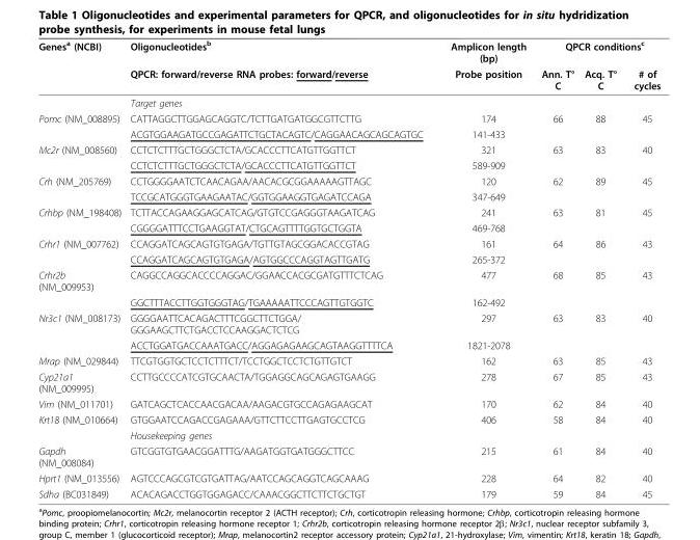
<table><thead><tr><td rowspan="2">Genes<sup>a</sup> (NCBI)</td><td rowspan="2">Oligonucleotides<sup>b</sup> QPCR: forward/reverse RNA probes: forward/reverse</td><td rowspan="2">Amplicon length (bp) Probe position</td><td colspan="3">QPCR conditions<sup>c</sup></td></tr><tr><td>Ann. T° C</td><td>Acq. T° C</td><td># of cycles</td></tr></thead><tbody><tr><td></td><td colspan="5">Target genes</td></tr><tr><td rowspan="2">Pomc (NM_008895)</td><td>CATTAGGCTTGGAGCAGGTC/TCTTGATGATGGCGTTCTTG</td><td>174</td><td>66</td><td>88</td><td>45</td></tr><tr><td>ACGTGGAAGATGCCGAGATTCTGCTACAGTC/CAGGAACAGCAGCAGTGC</td><td>141-433</td><td></td><td></td><td></td></tr><tr><td rowspan="2">Mc2r (NM_008560)</td><td>CCTCTCTTTGCTGGGCTCTA/GCACCCTTCATGTTGGTTCT</td><td>321</td><td>63</td><td>83</td><td>40</td></tr><tr><td>CCTCTCTTTGCTGGGCTCTA/GCACCCTTCATGTTGGTTCT</td><td>589-909</td><td></td><td></td><td></td></tr><tr><td rowspan="2">Crh (NM_205769)</td><td>CCTGGGGAATCTCAACAGAA/AACACGCGGAAAAAGTTAGC</td><td>120</td><td>62</td><td>89</td><td>45</td></tr><tr><td>TCCGCATGGGTGAAGAATAC/GGTGGAAGGTGAGATCCAGA</td><td>347-649</td><td></td><td></td><td></td></tr><tr><td rowspan="2">Crhbp (NM_198408)</td><td>TCTTACCAGAAGGAGCATCAG/GTGTCCGAGGGTAAGATCAG</td><td>241</td><td>63</td><td>81</td><td>45</td></tr><tr><td>CGGGGATTTCCTGAAGGTAT/CTGCAGTTTTGGTGCTGGTA</td><td>469-768</td><td></td><td></td><td></td></tr><tr><td rowspan="2">Crhr1 (NM_007762)</td><td>CCAGGATCAGCAGTGTGAGA/TGTTGTAGCGGACACCGTAG</td><td>161</td><td>64</td><td>86</td><td>43</td></tr><tr><td>CCAGGATCAGCAGTGTGAGA/AGTGGCCCAGGTAGTTGATG</td><td>265-372</td><td></td><td></td><td></td></tr><tr><td rowspan="2">Crhr2b (NM_009953)</td><td>CAGGCCAGGCACCCCAGGAC/GGAACCACGCGATGTTTCTCAG</td><td>477</td><td>68</td><td>85</td><td>43</td></tr><tr><td>GGCTTTACCTTGGTGGGTAG/TGAAAAATTCCCAGTTGTGGTC</td><td>162-492</td><td></td><td></td><td></td></tr><tr><td rowspan="2">Nr3c1 (NM_008173)</td><td>GGGGAATTCACAGACTTTCGGCTTCTGGA/ GGGAAGCTTCTGACCTCCAAGGACTCTCG</td><td>297</td><td>63</td><td>83</td><td>40</td></tr><tr><td>ACCTGGATGACCAAATGACC/AGGAGAGAAGCAGTAAGGTTTTCA</td><td>1821-2078</td><td></td><td></td><td></td></tr><tr><td>Mrap (NM_029844)</td><td>TTCGTGGTGCTCCTCTTTCT/TCCTGGCTCCTCTGTTGTCT</td><td>162</td><td>63</td><td>85</td><td>43</td></tr><tr><td>Cyp21a1 (NM_009995)</td><td>CCTTGCCCCATCGTGCAACTA/TGGAGGCAGCAGAGTGAAGG</td><td>278</td><td>67</td><td>85</td><td>43</td></tr><tr><td>Vim (NM_011701)</td><td>GATCAGCTCACCAACGACAA/AAGACGTGCCAGAGAAGCAT</td><td>170</td><td>62</td><td>84</td><td>40</td></tr><tr><td rowspan="2">Krt18 (NM_010664)</td><td>GTGGAATCCAGACCGAGAAA/GTTCTTCCTTGAGTGCCTCG</td><td>406</td><td>58</td><td>84</td><td>40</td></tr><tr><td colspan="5">Housekeeping genes</td></tr><tr><td>Gapdh (NM_008084)</td><td>GTCGGTGTGAACGGATTTG/AAGATGGTGATGGGCTTCC</td><td>215</td><td>61</td><td>84</td><td>40</td></tr><tr><td>Hprt1 (NM_013556)</td><td>AGTCCCAGCGTCGTGATTAG/AATCCAGCAGGTCAGCAAAG</td><td>228</td><td>64</td><td>82</td><td>40</td></tr><tr><td>Sdha (BC031849)</td><td>ACACAGACCTGGTGGAGACC/CAAACGGCTTCTTCTGCTGT</td><td>179</td><td>59</td><td>84</td><td>45</td></tr></tbody></table>